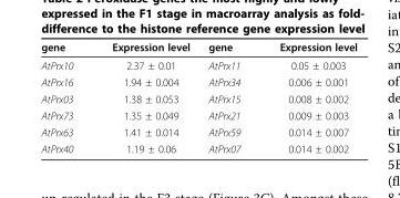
<table><thead><tr><td>gene</td><td>Expression level</td><td>gene</td><td>Expression level</td></tr></thead><tbody><tr><td>AtPrx10</td><td>2.37 ± 0.01</td><td>AtPrx11</td><td>0.05 ± 0.003</td></tr><tr><td>AtPrx16</td><td>1.94 ± 0.004</td><td>AtPrx34</td><td>0.006 ± 0.001</td></tr><tr><td>AtPrx03</td><td>1.38 ± 0.053</td><td>AtPrx15</td><td>0.008 ± 0.002</td></tr><tr><td>AtPrx73</td><td>1.35 ± 0.049</td><td>AtPrx21</td><td>0.009 ± 0.003</td></tr><tr><td>AtPrx63</td><td>1.41 ± 0.014</td><td>AtPrx59</td><td>0.014 ± 0.007</td></tr><tr><td>AtPrx40</td><td>1.19 ± 0.06</td><td>AtPrx07</td><td>0.014 ± 0.002</td></tr></tbody></table>